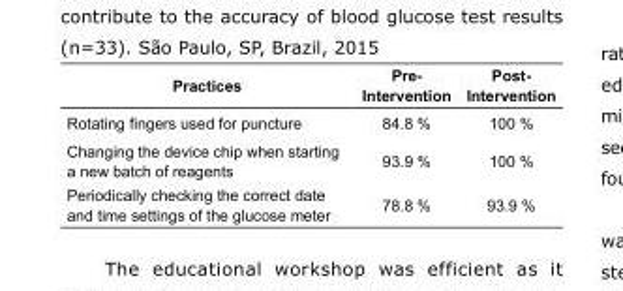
<table><tbody><tr><td>Practices</td><td>Pre- Intervention</td><td>Post- Intervention</td></tr><tr><td>Rotating fingers used for puncture</td><td>84.8 %</td><td>100 %</td></tr><tr><td>Changing the device chip when starting a new batch of reagents</td><td>93.9 %</td><td>100 %</td></tr><tr><td>Periodically checking the correct date and time settings of the glucose meter</td><td>78.8 %</td><td>93.9 %</td></tr></tbody></table>